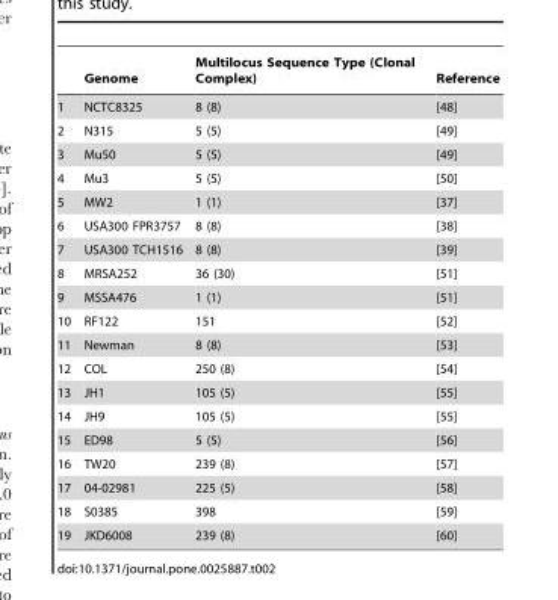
<table><thead><tr><td></td><td>Genome</td><td>Multilocus Sequence Type (Clonal Complex)</td><td>Reference</td></tr></thead><tbody><tr><td>1</td><td>NCTC8325</td><td>8 (8)</td><td>[48]</td></tr><tr><td>2</td><td>N315</td><td>5 (5)</td><td>[49]</td></tr><tr><td>3</td><td>Mu50</td><td>5 (5)</td><td>[49]</td></tr><tr><td>4</td><td>Mu3</td><td>5 (5)</td><td>[50]</td></tr><tr><td>5</td><td>MW2</td><td>1 (1)</td><td>[37]</td></tr><tr><td>6</td><td>USA300 FPR3757</td><td>8 (8)</td><td>[38]</td></tr><tr><td>7</td><td>USA300 TCH1516</td><td>8 (8)</td><td>[39]</td></tr><tr><td>8</td><td>MRSA252</td><td>36 (30)</td><td>[51]</td></tr><tr><td>9</td><td>MSSA476</td><td>1 (1)</td><td>[51]</td></tr><tr><td>10</td><td>RF122</td><td>151</td><td>[52]</td></tr><tr><td>11</td><td>Newman</td><td>8 (8)</td><td>[53]</td></tr><tr><td>12</td><td>COL</td><td>250 (8)</td><td>[54]</td></tr><tr><td>13</td><td>JH1</td><td>105 (5)</td><td>[55]</td></tr><tr><td>14</td><td>JH9</td><td>105 (5)</td><td>[55]</td></tr><tr><td>15</td><td>ED98</td><td>5 (5)</td><td>[56]</td></tr><tr><td>16</td><td>TW20</td><td>239 (8)</td><td>[57]</td></tr><tr><td>17</td><td>04-02981</td><td>225 (5)</td><td>[58]</td></tr><tr><td>18</td><td>S0385</td><td>398</td><td>[59]</td></tr><tr><td>19</td><td>JKD6008</td><td>239 (8)</td><td>[60]</td></tr></tbody></table>